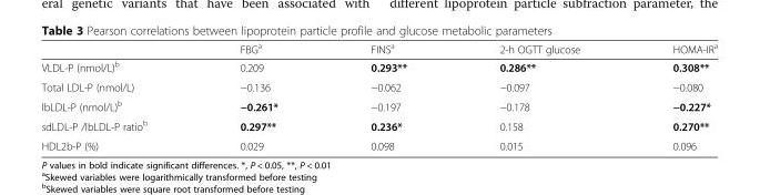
<table><thead><tr><td></td><td>FBG<sup>a</sup></td><td>FINS<sup>a</sup></td><td>2-h OGTT glucose</td><td>HOMA-IR<sup>a</sup></td></tr></thead><tbody><tr><td>VLDL-P (nmol/L)<sup>b</sup></td><td>0.209</td><td>0.293**</td><td>0.286**</td><td>0.308**</td></tr><tr><td>Total LDL-P (nmol/L)</td><td>−0.136</td><td>−0.062</td><td>−0.097</td><td>−0.080</td></tr><tr><td>lbLDL-P (nmol/L)<sup>b</sup></td><td>−0.261*</td><td>−0.197</td><td>−0.178</td><td>−0.227*</td></tr><tr><td>sdLDL-P /lbLDL-P ratio<sup>b</sup></td><td>0.297**</td><td>0.236*</td><td>0.158</td><td>0.270**</td></tr><tr><td>HDL2b-P (%)</td><td>0.029</td><td>0.098</td><td>0.015</td><td>0.096</td></tr></tbody></table>